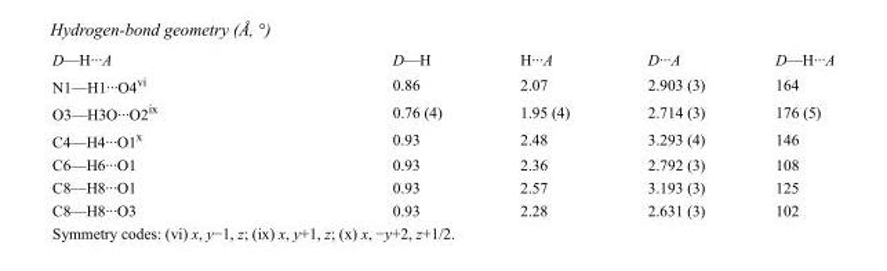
<table><tbody><tr><td>D—H···A</td><td>D—H</td><td>H···A</td><td>D···A</td><td>D—H···A</td></tr><tr><td>N1—H1···O4<sup>vi</sup></td><td>0.86</td><td>2.07</td><td>2.903 (3)</td><td>164</td></tr><tr><td>O3—H3O···O2<sup>ix</sup></td><td>0.76 (4)</td><td>1.95 (4)</td><td>2.714 (3)</td><td>176 (5)</td></tr><tr><td>C4—H4···O1<sup>x</sup></td><td>0.93</td><td>2.48</td><td>3.293 (4)</td><td>146</td></tr><tr><td>C6—H6···O1</td><td>0.93</td><td>2.36</td><td>2.792 (3)</td><td>108</td></tr><tr><td>C8—H8···O1</td><td>0.93</td><td>2.57</td><td>3.193 (3)</td><td>125</td></tr><tr><td>C8—H8···O3</td><td>0.93</td><td>2.28</td><td>2.631 (3)</td><td>102</td></tr></tbody></table>